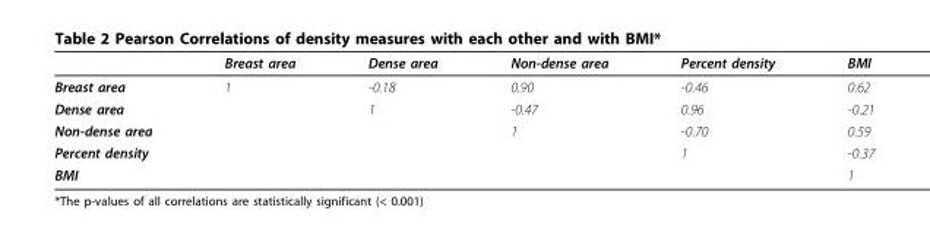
<table><thead><tr><td></td><td>Breast area</td><td>Dense area</td><td>Non-dense area</td><td>Percent density</td><td>BMI</td></tr></thead><tbody><tr><td>Breast area</td><td>1</td><td>-0.18</td><td>0.90</td><td>-0.46</td><td>0.62</td></tr><tr><td>Dense area</td><td></td><td>1</td><td>-0.47</td><td>0.96</td><td>-0.21</td></tr><tr><td>Non-dense area</td><td></td><td></td><td>1</td><td>-0.70</td><td>0.59</td></tr><tr><td>Percent density</td><td></td><td></td><td></td><td>1</td><td>-0.37</td></tr><tr><td>BMI</td><td></td><td></td><td></td><td></td><td>1</td></tr></tbody></table>